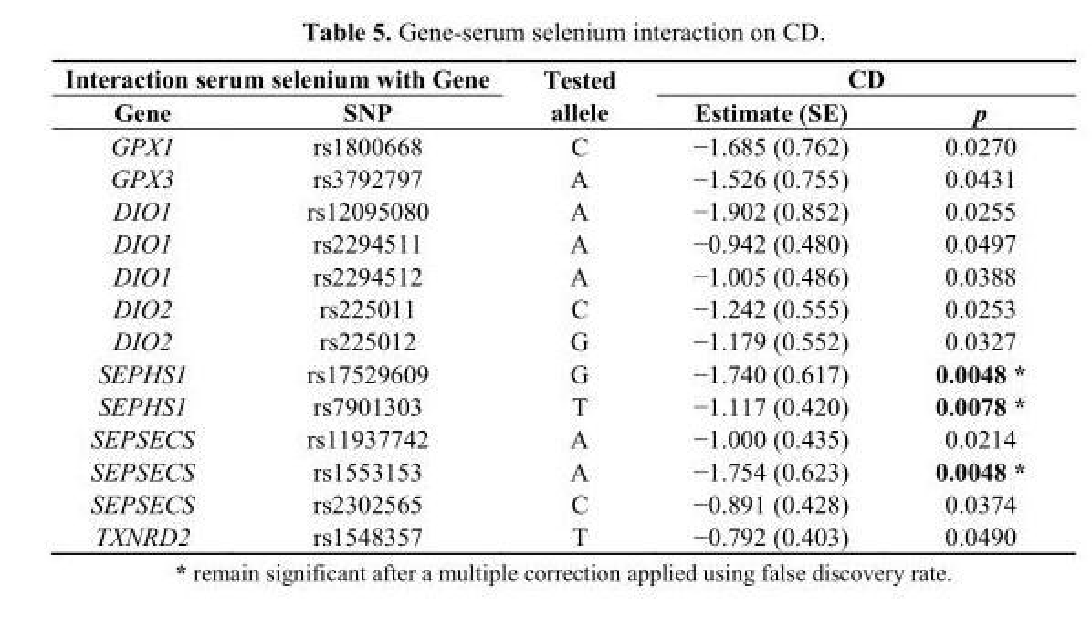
<table><thead><tr><td colspan="2">Interaction serum selenium with Gene</td><td rowspan="2">Tested allele</td><td colspan="2">CD</td></tr><tr><td>Gene</td><td>SNP</td><td>Estimate (SE)</td><td>p</td></tr></thead><tbody><tr><td>GPX1</td><td>rs1800668</td><td>C</td><td>−1.685 (0.762)</td><td>0.0270</td></tr><tr><td>GPX3</td><td>rs3792797</td><td>A</td><td>−1.526 (0.755)</td><td>0.0431</td></tr><tr><td>DIO1</td><td>rs12095080</td><td>A</td><td>−1.902 (0.852)</td><td>0.0255</td></tr><tr><td>DIO1</td><td>rs2294511</td><td>A</td><td>−0.942 (0.480)</td><td>0.0497</td></tr><tr><td>DIO1</td><td>rs2294512</td><td>A</td><td>−1.005 (0.486)</td><td>0.0388</td></tr><tr><td>DIO2</td><td>rs225011</td><td>C</td><td>−1.242 (0.555)</td><td>0.0253</td></tr><tr><td>DIO2</td><td>rs225012</td><td>G</td><td>−1.179 (0.552)</td><td>0.0327</td></tr><tr><td>SEPHS1</td><td>rs17529609</td><td>G</td><td>−1.740 (0.617)</td><td>0.0048 *</td></tr><tr><td>SEPHS1</td><td>rs7901303</td><td>T</td><td>−1.117 (0.420)</td><td>0.0078 *</td></tr><tr><td>SEPSECS</td><td>rs11937742</td><td>A</td><td>−1.000 (0.435)</td><td>0.0214</td></tr><tr><td>SEPSECS</td><td>rs1553153</td><td>A</td><td>−1.754 (0.623)</td><td>0.0048 *</td></tr><tr><td>SEPSECS</td><td>rs2302565</td><td>C</td><td>−0.891 (0.428)</td><td>0.0374</td></tr><tr><td>TXNRD2</td><td>rs1548357</td><td>T</td><td>−0.792 (0.403)</td><td>0.0490</td></tr></tbody></table>